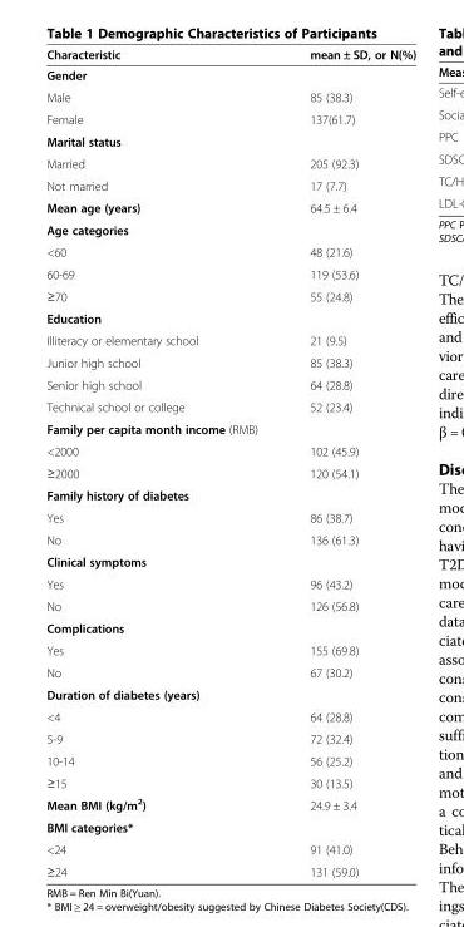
<table><thead><tr><td>Characteristic</td><td>mean ± SD, or N(%)</td></tr></thead><tbody><tr><td colspan="2">Gender</td></tr><tr><td>Male</td><td>85 (38.3)</td></tr><tr><td>Female</td><td>137(61.7)</td></tr><tr><td colspan="2">Marital status</td></tr><tr><td>Married</td><td>205 (92.3)</td></tr><tr><td>Not married</td><td>17 (7.7)</td></tr><tr><td>Mean age (years)</td><td>64.5 ± 6.4</td></tr><tr><td colspan="2">Age categories</td></tr><tr><td>&lt;60</td><td>48 (21.6)</td></tr><tr><td>60-69</td><td>119 (53.6)</td></tr><tr><td>≥70</td><td>55 (24.8)</td></tr><tr><td colspan="2">Education</td></tr><tr><td>Illiteracy or elementary school</td><td>21 (9.5)</td></tr><tr><td>Junior high school</td><td>85 (38.3)</td></tr><tr><td>Senior high school</td><td>64 (28.8)</td></tr><tr><td>Technical school or college</td><td>52 (23.4)</td></tr><tr><td colspan="2">Family per capita month income (RMB)</td></tr><tr><td>&lt;2000</td><td>102 (45.9)</td></tr><tr><td>≥2000</td><td>120 (54.1)</td></tr><tr><td colspan="2">Family history of diabetes</td></tr><tr><td>Yes</td><td>86 (38.7)</td></tr><tr><td>No</td><td>136 (61.3)</td></tr><tr><td colspan="2">Clinical symptoms</td></tr><tr><td>Yes</td><td>96 (43.2)</td></tr><tr><td>No</td><td>126 (56.8)</td></tr><tr><td colspan="2">Complications</td></tr><tr><td>Yes</td><td>155 (69.8)</td></tr><tr><td>No</td><td>67 (30.2)</td></tr><tr><td colspan="2">Duration of diabetes (years)</td></tr><tr><td>&lt;4</td><td>64 (28.8)</td></tr><tr><td>5-9</td><td>72 (32.4)</td></tr><tr><td>10-14</td><td>56 (25.2)</td></tr><tr><td>≥15</td><td>30 (13.5)</td></tr><tr><td>Mean BMI (kg/m<sup>2</sup>)</td><td>24.9 ± 3.4</td></tr><tr><td colspan="2">BMI categories*</td></tr><tr><td>&lt;24</td><td>91 (41.0)</td></tr><tr><td>≥24</td><td>131 (59.0)</td></tr></tbody></table>